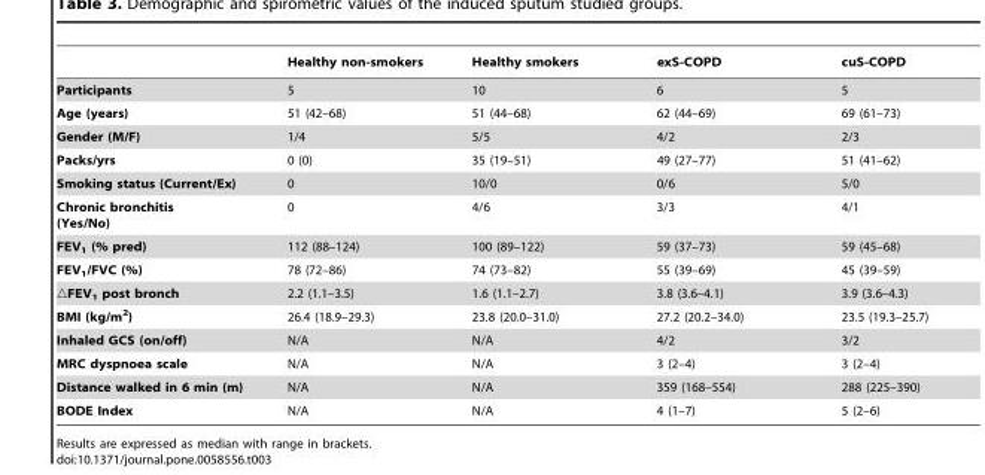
<table><thead><tr><td></td><td>Healthy non-smokers</td><td>Healthy smokers</td><td>exS-COPD</td><td>cuS-COPD</td></tr></thead><tbody><tr><td>Participants</td><td>5</td><td>10</td><td>6</td><td>5</td></tr><tr><td>Age (years)</td><td>51 (42–68)</td><td>51 (44–68)</td><td>62 (44–69)</td><td>69 (61–73)</td></tr><tr><td>Gender (M/F)</td><td>1/4</td><td>5/5</td><td>4/2</td><td>2/3</td></tr><tr><td>Packs/yrs</td><td>0 (0)</td><td>35 (19–51)</td><td>49 (27–77)</td><td>51 (41–62)</td></tr><tr><td>Smoking status (Current/Ex)</td><td>0</td><td>10/0</td><td>0/6</td><td>5/0</td></tr><tr><td>Chronic bronchitis (Yes/No)</td><td>0</td><td>4/6</td><td>3/3</td><td>4/1</td></tr><tr><td>FEV<sub>1</sub> (% pred)</td><td>112 (88–124)</td><td>100 (89–122)</td><td>59 (37–73)</td><td>59 (45–68)</td></tr><tr><td>FEV<sub>1</sub>/FVC (%)</td><td>78 (72–86)</td><td>74 (73–82)</td><td>55 (39–69)</td><td>45 (39–59)</td></tr><tr><td>▵FEV<sub>1</sub> post bronch</td><td>2.2 (1.1–3.5)</td><td>1.6 (1.1–2.7)</td><td>3.8 (3.6–4.1)</td><td>3.9 (3.6–4.3)</td></tr><tr><td>BMI (kg/m<sup>2</sup>)</td><td>26.4 (18.9–29.3)</td><td>23.8 (20.0–31.0)</td><td>27.2 (20.2–34.0)</td><td>23.5 (19.3–25.7)</td></tr><tr><td>Inhaled GCS (on/off)</td><td>N/A</td><td>N/A</td><td>4/2</td><td>3/2</td></tr><tr><td>MRC dyspnoea scale</td><td>N/A</td><td>N/A</td><td>3 (2–4)</td><td>3 (2–4)</td></tr><tr><td>Distance walked in 6 min (m)</td><td>N/A</td><td>N/A</td><td>359 (168–554)</td><td>288 (225–390)</td></tr><tr><td>BODE Index</td><td>N/A</td><td>N/A</td><td>4 (1–7)</td><td>5 (2–6)</td></tr></tbody></table>